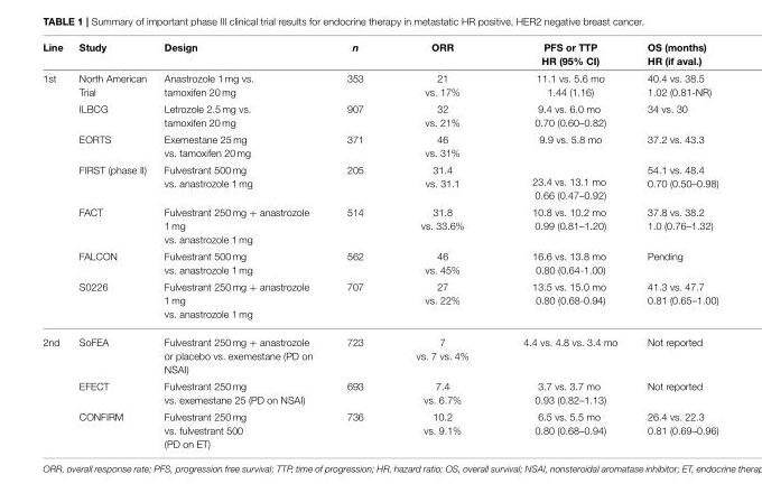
<table><thead><tr><td>Line</td><td>Study</td><td>Design</td><td>n</td><td>ORR</td><td>PFS or TTP HR (95% CI)</td><td>OS (months) HR (if aval.)</td></tr></thead><tbody><tr><td rowspan="7">1st</td><td>North American Trial</td><td>Anastrozole 1 mg vs. tamoxifen 20 mg</td><td>353</td><td>21 vs. 17%</td><td>11.1 vs. 5.6 mo 1.44 (1.16)</td><td>40.4 vs. 38.5 1.02 (0.81-NR)</td></tr><tr><td>ILBCG</td><td>Letrozole 2.5 mg vs. tamoxifen 20 mg</td><td>907</td><td>32 vs. 21%</td><td>9.4 vs. 6.0 mo 0.70 (0.60–0.82)</td><td>34 vs. 30</td></tr><tr><td>EORTS</td><td>Exemestane 25 mg vs. tamoxifen 20 mg</td><td>371</td><td>46 vs. 31%</td><td>9.9 vs. 5.8 mo</td><td>37.2 vs. 43.3</td></tr><tr><td>FIRST (phase II)</td><td>Fulvestrant 500 mg vs. anastrozole 1 mg</td><td>205</td><td>31.4 vs. 31.1</td><td>23.4 vs. 13.1 mo 0.66 (0.47–0.92)</td><td>54.1 vs. 48.4 0.70 (0.50–0.98)</td></tr><tr><td>FACT</td><td>Fulvestrant 250 mg + anastrozole 1 mg vs. anastrozole 1 mg</td><td>514</td><td>31.8 vs. 33.6%</td><td>10.8 vs. 10.2 mo 0.99 (0.81–1.20)</td><td>37.8 vs. 38.2 1.0 (0.76–1.32)</td></tr><tr><td>FALCON</td><td>Fulvestrant 500 mg vs. anastrozole 1 mg</td><td>562</td><td>46 vs. 45%</td><td>16.6 vs. 13.8 mo 0.80 (0.64-1.00)</td><td>Pending</td></tr><tr><td>S0226</td><td>Fulvestrant 250 mg + anastrozole 1 mg vs. anastrozole 1 mg</td><td>707</td><td>27 vs. 22%</td><td>13.5 vs. 15.0 mo 0.80 (0.68-0.94)</td><td>41.3 vs. 47.7 0.81 (0.65–1.00)</td></tr><tr><td rowspan="3">2nd</td><td>SoFEA</td><td>Fulvestrant 250 mg + anastrozole or placebo vs. exemestane (PD on NSAI)</td><td>723</td><td>7 vs. 7 vs. 4%</td><td>4.4 vs. 4.8 vs. 3.4 mo</td><td>Not reported</td></tr><tr><td>EFECT</td><td>Fulvestrant 250 mg vs. exemestane 25 (PD on NSAI)</td><td>693</td><td>7.4 vs. 6.7%</td><td>3.7 vs. 3.7 mo 0.93 (0.82–1.13)</td><td>Not reported</td></tr><tr><td>CONFIRM</td><td>Fulvestrant 250 mg vs. fulvestrant 500 (PD on ET)</td><td>736</td><td>10.2 vs. 9.1%</td><td>6.5 vs. 5.5 mo 0.80 (0.68–0.94)</td><td>26.4 vs. 22.3 0.81 (0.69–0.96)</td></tr></tbody></table>